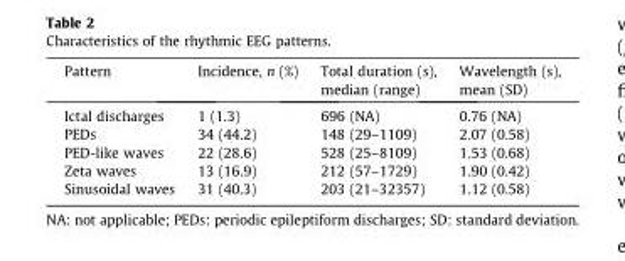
<table><thead><tr><td>Pattern</td><td>Incidence, n (%)</td><td>Total duration (s), median (range)</td><td>Wavelength (s), mean (SD)</td></tr></thead><tbody><tr><td>Ictal discharges</td><td>1 (1.3)</td><td>696 (NA)</td><td>0.76 (NA)</td></tr><tr><td>PEDs</td><td>34 (44.2)</td><td>148 (29–1109)</td><td>2.07 (0.58)</td></tr><tr><td>PED-like waves</td><td>22 (28.6)</td><td>528 (25–8109)</td><td>1.53 (0.68)</td></tr><tr><td>Zeta waves</td><td>13 (16.9)</td><td>212 (57–1729)</td><td>1.90 (0.42)</td></tr><tr><td>Sinusoidal waves</td><td>31 (40.3)</td><td>203 (21–32357)</td><td>1.12 (0.58)</td></tr></tbody></table>